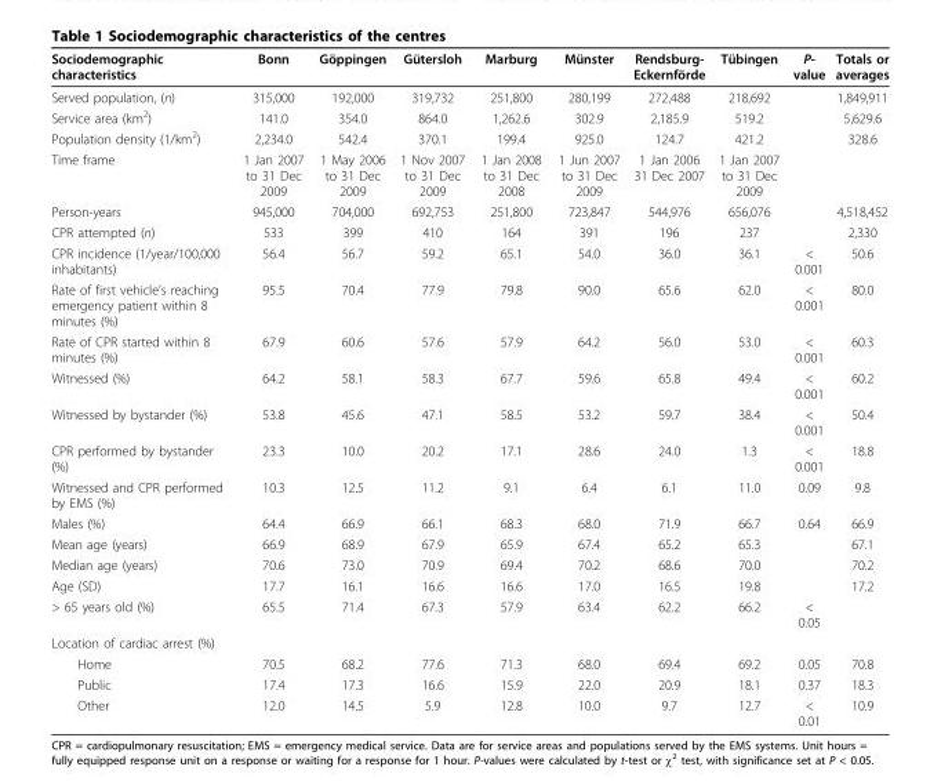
<table><thead><tr><td>Sociodemographic characteristics</td><td>Bonn</td><td>Göppingen</td><td>Gütersloh</td><td>Marburg</td><td>Münster</td><td>Rendsburg- Eckernförde</td><td>Tübingen</td><td>P- value</td><td>Totals or averages</td></tr></thead><tbody><tr><td>Served population, (n)</td><td>315,000</td><td>192,000</td><td>319,732</td><td>251,800</td><td>280,199</td><td>272,488</td><td>218,692</td><td></td><td>1,849,911</td></tr><tr><td>Service area (km<sup>2</sup>)</td><td>141.0</td><td>354.0</td><td>864.0</td><td>1,262.6</td><td>302.9</td><td>2,185.9</td><td>519.2</td><td></td><td>5,629.6</td></tr><tr><td>Population density (1/km<sup>2</sup>)</td><td>2,234.0</td><td>542.4</td><td>370.1</td><td>199.4</td><td>925.0</td><td>124.7</td><td>421.2</td><td></td><td>328.6</td></tr><tr><td>Time frame</td><td>1 Jan 2007 to 31 Dec 2009</td><td>1 May 2006 to 31 Dec 2009</td><td>1 Nov 2007 to 31 Dec 2009</td><td>1 Jan 2008 to 31 Dec 2008</td><td>1 Jun 2007 to 31 Dec 2009</td><td>1 Jan 2006 31 Dec 2007</td><td>1 Jan 2007 to 31 Dec 2009</td><td></td><td></td></tr><tr><td>Person-years</td><td>945,000</td><td>704,000</td><td>692,753</td><td>251,800</td><td>723,847</td><td>544,976</td><td>656,076</td><td></td><td>4,518,452</td></tr><tr><td>CPR attempted (n)</td><td>533</td><td>399</td><td>410</td><td>164</td><td>391</td><td>196</td><td>237</td><td></td><td>2,330</td></tr><tr><td>CPR incidence (1/year/100,000 inhabitants)</td><td>56.4</td><td>56.7</td><td>59.2</td><td>65.1</td><td>54.0</td><td>36.0</td><td>36.1</td><td>&lt; 0.001</td><td>50.6</td></tr><tr><td>Rate of first vehicle’s reaching emergency patient within 8 minutes (%)</td><td>95.5</td><td>70.4</td><td>77.9</td><td>79.8</td><td>90.0</td><td>65.6</td><td>62.0</td><td>&lt; 0.001</td><td>80.0</td></tr><tr><td>Rate of CPR started within 8 minutes (%)</td><td>67.9</td><td>60.6</td><td>57.6</td><td>57.9</td><td>64.2</td><td>56.0</td><td>53.0</td><td>&lt; 0.001</td><td>60.3</td></tr><tr><td>Witnessed (%)</td><td>64.2</td><td>58.1</td><td>58.3</td><td>67.7</td><td>59.6</td><td>65.8</td><td>49.4</td><td>&lt; 0.001</td><td>60.2</td></tr><tr><td>Witnessed by bystander (%)</td><td>53.8</td><td>45.6</td><td>47.1</td><td>58.5</td><td>53.2</td><td>59.7</td><td>38.4</td><td>&lt; 0.001</td><td>50.4</td></tr><tr><td>CPR performed by bystander (%)</td><td>23.3</td><td>10.0</td><td>20.2</td><td>17.1</td><td>28.6</td><td>24.0</td><td>1.3</td><td>&lt; 0.001</td><td>18.8</td></tr><tr><td>Witnessed and CPR performed by EMS (%)</td><td>10.3</td><td>12.5</td><td>11.2</td><td>9.1</td><td>6.4</td><td>6.1</td><td>11.0</td><td>0.09</td><td>9.8</td></tr><tr><td>Males (%)</td><td>64.4</td><td>66.9</td><td>66.1</td><td>68.3</td><td>68.0</td><td>71.9</td><td>66.7</td><td>0.64</td><td>66.9</td></tr><tr><td>Mean age (years)</td><td>66.9</td><td>68.9</td><td>67.9</td><td>65.9</td><td>67.4</td><td>65.2</td><td>65.3</td><td></td><td>67.1</td></tr><tr><td>Median age (years)</td><td>70.6</td><td>73.0</td><td>70.9</td><td>69.4</td><td>70.2</td><td>68.6</td><td>70.0</td><td></td><td>70.2</td></tr><tr><td>Age (SD)</td><td>17.7</td><td>16.1</td><td>16.6</td><td>16.6</td><td>17.0</td><td>16.5</td><td>19.8</td><td></td><td>17.2</td></tr><tr><td>&gt; 65 years old (%)</td><td>65.5</td><td>71.4</td><td>67.3</td><td>57.9</td><td>63.4</td><td>62.2</td><td>66.2</td><td>&lt; 0.05</td><td></td></tr><tr><td colspan="10">Location of cardiac arrest (%)</td></tr><tr><td>Home</td><td>70.5</td><td>68.2</td><td>77.6</td><td>71.3</td><td>68.0</td><td>69.4</td><td>69.2</td><td>0.05</td><td>70.8</td></tr><tr><td>Public</td><td>17.4</td><td>17.3</td><td>16.6</td><td>15.9</td><td>22.0</td><td>20.9</td><td>18.1</td><td>0.37</td><td>18.3</td></tr><tr><td>Other</td><td>12.0</td><td>14.5</td><td>5.9</td><td>12.8</td><td>10.0</td><td>9.7</td><td>12.7</td><td>&lt; 0.01</td><td>10.9</td></tr></tbody></table>